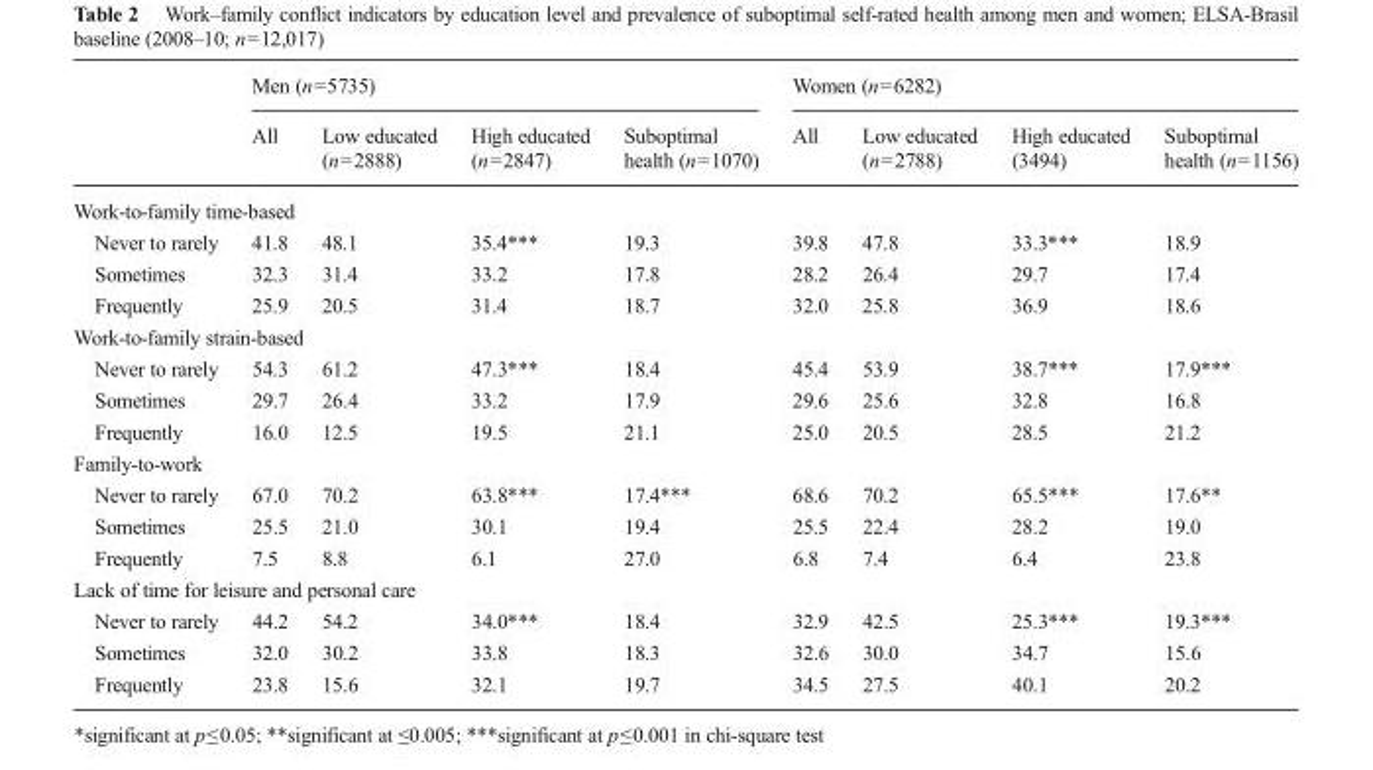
<table><thead><tr><td rowspan="2"></td><td colspan="4">Men (n=5735)</td><td colspan="4">Women (n=6282)</td></tr><tr><td>All</td><td>Low educated (n=2888)</td><td>High educated (n=2847)</td><td>Suboptimal health (n=1070)</td><td>All</td><td>Low educated (n=2788)</td><td>High educated (3494)</td><td>Suboptimal health (n=1156)</td></tr></thead><tbody><tr><td colspan="9">Work-to-family time-based</td></tr><tr><td>Never to rarely</td><td>41.8</td><td>48.1</td><td>35.4***</td><td>19.3</td><td>39.8</td><td>47.8</td><td>33.3***</td><td>18.9</td></tr><tr><td>Sometimes</td><td>32.3</td><td>31.4</td><td>33.2</td><td>17.8</td><td>28.2</td><td>26.4</td><td>29.7</td><td>17.4</td></tr><tr><td>Frequently</td><td>25.9</td><td>20.5</td><td>31.4</td><td>18.7</td><td>32.0</td><td>25.8</td><td>36.9</td><td>18.6</td></tr><tr><td colspan="9">Work-to-family strain-based</td></tr><tr><td>Never to rarely</td><td>54.3</td><td>61.2</td><td>47.3***</td><td>18.4</td><td>45.4</td><td>53.9</td><td>38.7***</td><td>17.9***</td></tr><tr><td>Sometimes</td><td>29.7</td><td>26.4</td><td>33.2</td><td>17.9</td><td>29.6</td><td>25.6</td><td>32.8</td><td>16.8</td></tr><tr><td>Frequently</td><td>16.0</td><td>12.5</td><td>19.5</td><td>21.1</td><td>25.0</td><td>20.5</td><td>28.5</td><td>21.2</td></tr><tr><td colspan="9">Family-to-work</td></tr><tr><td>Never to rarely</td><td>67.0</td><td>70.2</td><td>63.8***</td><td>17.4***</td><td>68.6</td><td>70.2</td><td>65.5***</td><td>17.6**</td></tr><tr><td>Sometimes</td><td>25.5</td><td>21.0</td><td>30.1</td><td>19.4</td><td>25.5</td><td>22.4</td><td>28.2</td><td>19.0</td></tr><tr><td>Frequently</td><td>7.5</td><td>8.8</td><td>6.1</td><td>27.0</td><td>6.8</td><td>7.4</td><td>6.4</td><td>23.8</td></tr><tr><td colspan="9">Lack of time for leisure and personal care</td></tr><tr><td>Never to rarely</td><td>44.2</td><td>54.2</td><td>34.0***</td><td>18.4</td><td>32.9</td><td>42.5</td><td>25.3***</td><td>19.3***</td></tr><tr><td>Sometimes</td><td>32.0</td><td>30.2</td><td>33.8</td><td>18.3</td><td>32.6</td><td>30.0</td><td>34.7</td><td>15.6</td></tr><tr><td>Frequently</td><td>23.8</td><td>15.6</td><td>32.1</td><td>19.7</td><td>34.5</td><td>27.5</td><td>40.1</td><td>20.2</td></tr></tbody></table>